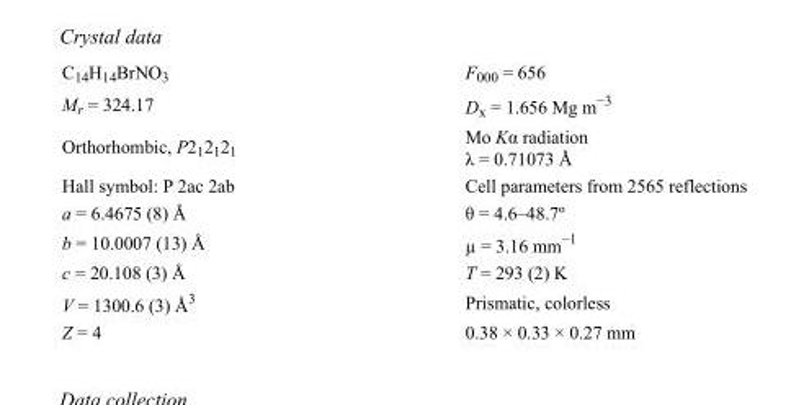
<table><tbody><tr><td>C<sub>14</sub>H<sub>14</sub>BrNO<sub>3</sub></td><td>F000 = 656</td></tr><tr><td>M<sub>r</sub> = 324.17</td><td>D<sub>x</sub> = 1.656 Mg m<sup>−3</sup></td></tr><tr><td>Orthorhombic, P2<sub>1</sub>2<sub>1</sub>2<sub>1</sub></td><td>Mo Kα radiation λ = 0.71073 Å</td></tr><tr><td>Hall symbol: P 2ac 2ab</td><td>Cell parameters from 2565 reflections</td></tr><tr><td>a = 6.4675 (8) Å</td><td>θ = 4.6–48.7º</td></tr><tr><td>b = 10.0007 (13) Å</td><td>µ = 3.16 mm<sup>−1</sup></td></tr><tr><td>c = 20.108 (3) Å</td><td>T = 293 (2) K</td></tr><tr><td>V = 1300.6 (3) Å<sup>3</sup></td><td>Prismatic, colorless</td></tr><tr><td>Z = 4</td><td>0.38 × 0.33 × 0.27 mm</td></tr></tbody></table>